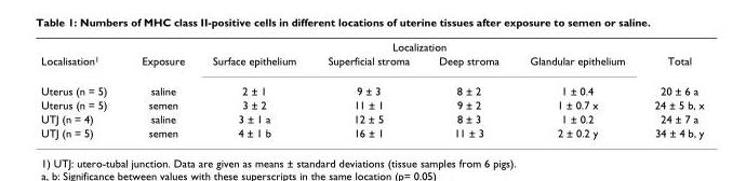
<table><thead><tr><td rowspan="2">Localisation<sup>1</sup></td><td rowspan="2">Exposure</td><td colspan="4">Localization</td><td rowspan="2">Total</td></tr><tr><td>Surface epithelium</td><td>Superficial stroma</td><td>Deep stroma</td><td>Glandular epithelium</td></tr></thead><tbody><tr><td>Uterus (n = 5)</td><td>saline</td><td>2 ± 1</td><td>9 ± 3</td><td>8 ± 2</td><td>1 ± 0.4</td><td>20 ± 6 a</td></tr><tr><td>Uterus (n = 5)</td><td>semen</td><td>3 ± 2</td><td>11 ± 1</td><td>9 ± 2</td><td>1 ± 0.7 x</td><td>24 ± 5 b, x</td></tr><tr><td>UTJ (n = 4)</td><td>saline</td><td>3 ± 1 a</td><td>12 ± 5</td><td>8 ± 3</td><td>1 ± 0.2</td><td>24 ± 7 a</td></tr><tr><td>UTJ (n = 5)</td><td>semen</td><td>4 ± 1 b</td><td>16 ± 1</td><td>11 ± 3</td><td>2 ± 0.2 y</td><td>34 ± 4 b, y</td></tr></tbody></table>